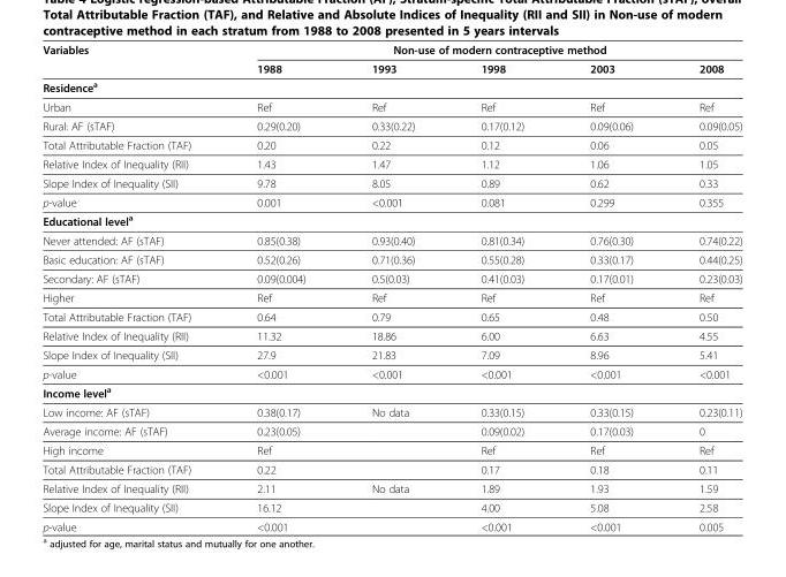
<table><thead><tr><td rowspan="2">Variables</td><td colspan="5">Non-use of modern contraceptive method</td></tr><tr><td>1988</td><td>1993</td><td>1998</td><td>2003</td><td>2008</td></tr></thead><tbody><tr><td colspan="6">Residence<sup>a</sup></td></tr><tr><td>Urban</td><td>Ref</td><td>Ref</td><td>Ref</td><td>Ref</td><td>Ref</td></tr><tr><td>Rural: AF (sTAF)</td><td>0.29(0.20)</td><td>0.33(0.22)</td><td>0.17(0.12)</td><td>0.09(0.06)</td><td>0.09(0.05)</td></tr><tr><td>Total Attributable Fraction (TAF)</td><td>0.20</td><td>0.22</td><td>0.12</td><td>0.06</td><td>0.05</td></tr><tr><td>Relative Index of Inequality (RII)</td><td>1.43</td><td>1.47</td><td>1.12</td><td>1.06</td><td>1.05</td></tr><tr><td>Slope Index of Inequality (SII)</td><td>9.78</td><td>8.05</td><td>0.89</td><td>0.62</td><td>0.33</td></tr><tr><td>p-value</td><td>0.001</td><td>&lt;0.001</td><td>0.081</td><td>0.299</td><td>0.355</td></tr><tr><td colspan="6">Educational level<sup>a</sup></td></tr><tr><td>Never attended: AF (sTAF)</td><td>0.85(0.38)</td><td>0.93(0.40)</td><td>0.81(0.34)</td><td>0.76(0.30)</td><td>0.74(0.22)</td></tr><tr><td>Basic education: AF (sTAF)</td><td>0.52(0.26)</td><td>0.71(0.36)</td><td>0.55(0.28)</td><td>0.33(0.17)</td><td>0.44(0.25)</td></tr><tr><td>Secondary: AF (sTAF)</td><td>0.09(0.004)</td><td>0.5(0.03)</td><td>0.41(0.03)</td><td>0.17(0.01)</td><td>0.23(0.03)</td></tr><tr><td>Higher</td><td>Ref</td><td>Ref</td><td>Ref</td><td>Ref</td><td>Ref</td></tr><tr><td>Total Attributable Fraction (TAF)</td><td>0.64</td><td>0.79</td><td>0.65</td><td>0.48</td><td>0.50</td></tr><tr><td>Relative Index of Inequality (RII)</td><td>11.32</td><td>18.86</td><td>6.00</td><td>6.63</td><td>4.55</td></tr><tr><td>Slope Index of Inequality (SII)</td><td>27.9</td><td>21.83</td><td>7.09</td><td>8.96</td><td>5.41</td></tr><tr><td>p-value</td><td>&lt;0.001</td><td>&lt;0.001</td><td>&lt;0.001</td><td>&lt;0.001</td><td>&lt;0.001</td></tr><tr><td colspan="6">Income level<sup>a</sup></td></tr><tr><td>Low income: AF (sTAF)</td><td>0.38(0.17)</td><td>No data</td><td>0.33(0.15)</td><td>0.33(0.15)</td><td>0.23(0.11)</td></tr><tr><td>Average income: AF (sTAF)</td><td>0.23(0.05)</td><td></td><td>0.09(0.02)</td><td>0.17(0.03)</td><td>0</td></tr><tr><td>High income</td><td>Ref</td><td></td><td>Ref</td><td>Ref</td><td>Ref</td></tr><tr><td>Total Attributable Fraction (TAF)</td><td>0.22</td><td></td><td>0.17</td><td>0.18</td><td>0.11</td></tr><tr><td>Relative Index of Inequality (RII)</td><td>2.11</td><td>No data</td><td>1.89</td><td>1.93</td><td>1.59</td></tr><tr><td>Slope Index of Inequality (SII)</td><td>16.12</td><td></td><td>4.00</td><td>5.08</td><td>2.58</td></tr><tr><td>p-value</td><td>&lt;0.001</td><td></td><td>&lt;0.001</td><td>&lt;0.001</td><td>0.005</td></tr></tbody></table>